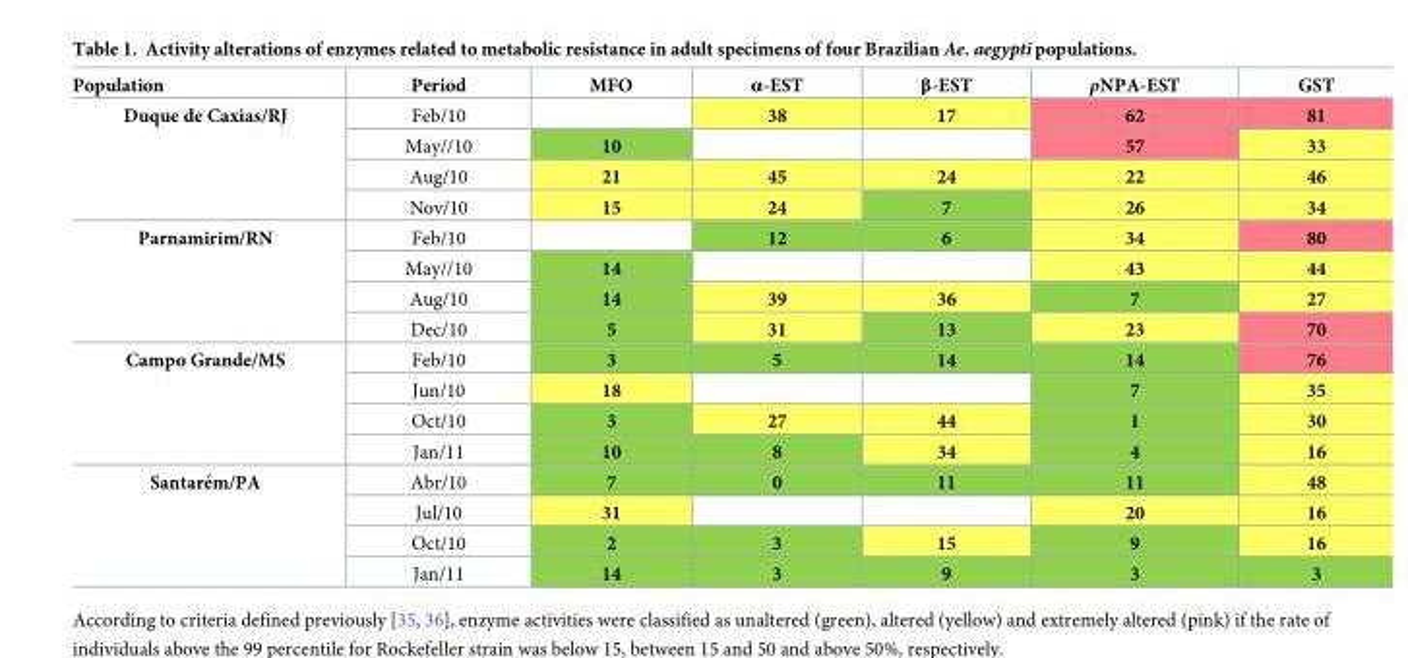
<table><thead><tr><td>Population</td><td>Period</td><td>MFO</td><td>α-EST</td><td>β-EST</td><td>ρNPA-EST</td><td>GST</td></tr></thead><tbody><tr><td rowspan="4">Duque de Caxias/RJ</td><td>Feb/10</td><td></td><td>38</td><td>17</td><td>62</td><td>81</td></tr><tr><td>May//10</td><td>10</td><td></td><td></td><td>57</td><td>33</td></tr><tr><td>Aug/10</td><td>21</td><td>45</td><td>24</td><td>22</td><td>46</td></tr><tr><td>Nov/10</td><td>15</td><td>24</td><td>7</td><td>26</td><td>34</td></tr><tr><td rowspan="4">Parnamirim/RN</td><td>Feb/10</td><td></td><td>12</td><td>6</td><td>34</td><td>80</td></tr><tr><td>May//10</td><td>14</td><td></td><td></td><td>43</td><td>44</td></tr><tr><td>Aug/10</td><td>14</td><td>39</td><td>36</td><td>7</td><td>27</td></tr><tr><td>Dec/10</td><td>5</td><td>31</td><td>13</td><td>23</td><td>70</td></tr><tr><td rowspan="4">Campo Grande/MS</td><td>Feb/10</td><td>3</td><td>5</td><td>14</td><td>14</td><td>76</td></tr><tr><td>Jun/10</td><td>18</td><td></td><td></td><td>7</td><td>35</td></tr><tr><td>Oct/10</td><td>3</td><td>27</td><td>44</td><td>1</td><td>30</td></tr><tr><td>Jan/11</td><td>10</td><td>8</td><td>34</td><td>4</td><td>16</td></tr><tr><td rowspan="4">Santare´m/PA</td><td>Abr/10</td><td>7</td><td>0</td><td>11</td><td>11</td><td>48</td></tr><tr><td>Jul/10</td><td>31</td><td></td><td></td><td>20</td><td>16</td></tr><tr><td>Oct/10</td><td>2</td><td>3</td><td>15</td><td>9</td><td>16</td></tr><tr><td>Jan/11</td><td>14</td><td>3</td><td>9</td><td>3</td><td>3</td></tr></tbody></table>